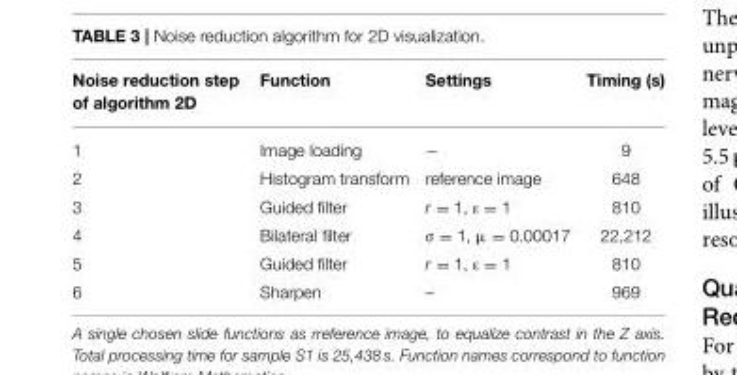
<table><thead><tr><td>Noise reduction step of algorithm 2D</td><td>Function</td><td>Settings</td><td>Timing (s)</td></tr></thead><tbody><tr><td>1</td><td>Image loading</td><td>−</td><td>9</td></tr><tr><td>2</td><td>Histogram transform</td><td>reference image</td><td>648</td></tr><tr><td>3</td><td>Guided filter</td><td>r = 1, ε = 1</td><td>810</td></tr><tr><td>4</td><td>Bilateral filter</td><td>σ = 1, µ = 0.00017</td><td>22,212</td></tr><tr><td>5</td><td>Guided filter</td><td>r = 1, ε = 1</td><td>810</td></tr><tr><td>6</td><td>Sharpen</td><td>–</td><td>969</td></tr></tbody></table>